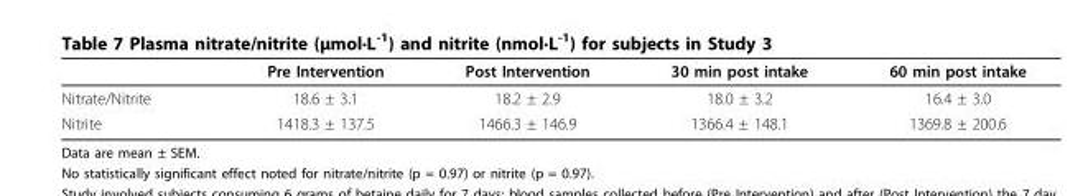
<table><thead><tr><td></td><td>Pre Intervention</td><td>Post Intervention</td><td>30 min post intake</td><td>60 min post intake</td></tr></thead><tbody><tr><td>Nitrate/Nitrite</td><td>18.6 ± 3.1</td><td>18.2 ± 2.9</td><td>18.0 ± 3.2</td><td>16.4 ± 3.0</td></tr><tr><td>Nitrite</td><td>1418.3 ± 137.5</td><td>1466.3 ± 146.9</td><td>1366.4 ± 148.1</td><td>1369.8 ± 200.6</td></tr></tbody></table>